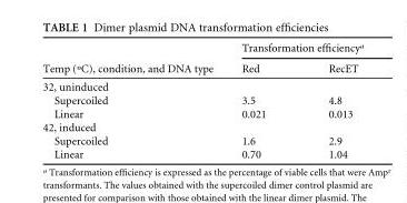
<table><thead><tr><td rowspan="2">Temp (ºC), condition, and DNA type</td><td colspan="2">Transformation efficiency<sup>a</sup></td></tr><tr><td>Red</td><td>RecET</td></tr></thead><tbody><tr><td colspan="3">32, uninduced</td></tr><tr><td>Supercoiled</td><td>3.5</td><td>4.8</td></tr><tr><td>Linear</td><td>0.021</td><td>0.013</td></tr><tr><td colspan="3">42, induced</td></tr><tr><td>Supercoiled</td><td>1.6</td><td>2.9</td></tr><tr><td>Linear</td><td>0.70</td><td>1.04</td></tr></tbody></table>